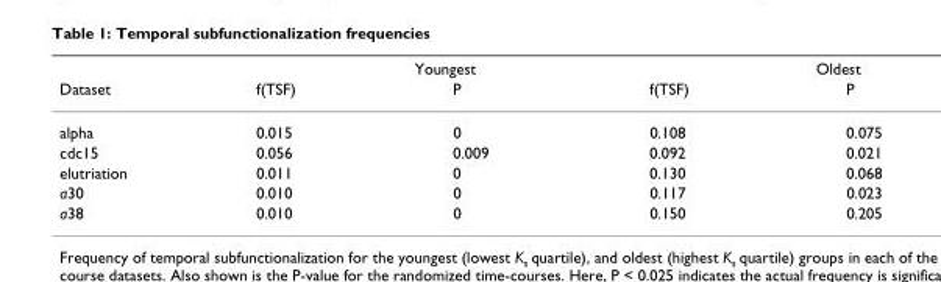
<table><thead><tr><td rowspan="2">Dataset</td><td colspan="2">Youngest</td><td colspan="2">Oldest</td></tr><tr><td>f(TSF)</td><td>P</td><td>f(TSF)</td><td>P</td></tr></thead><tbody><tr><td>alpha</td><td>0.015</td><td>0</td><td>0.108</td><td>0.075</td></tr><tr><td>cdc15</td><td>0.056</td><td>0.009</td><td>0.092</td><td>0.021</td></tr><tr><td>elutriation</td><td>0.011</td><td>0</td><td>0.130</td><td>0.068</td></tr><tr><td>a30</td><td>0.010</td><td>0</td><td>0.117</td><td>0.023</td></tr><tr><td>a38</td><td>0.010</td><td>0</td><td>0.150</td><td>0.205</td></tr></tbody></table>